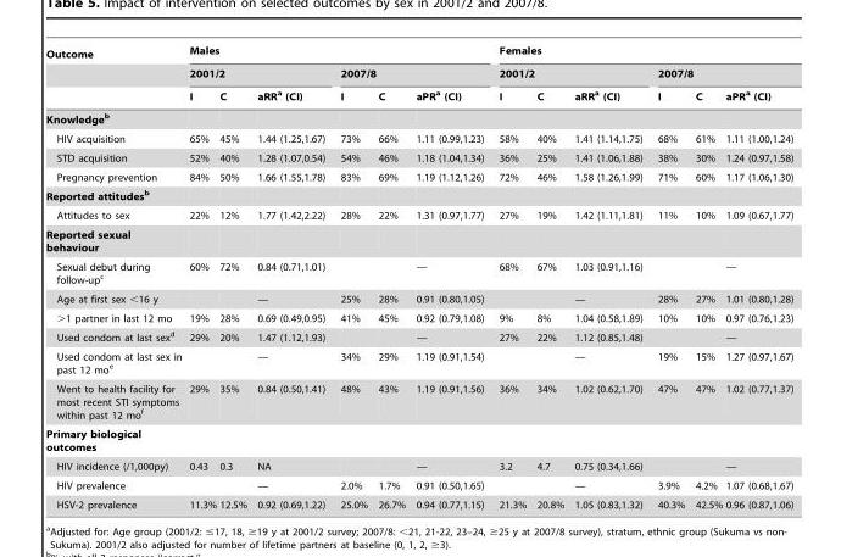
<table><thead><tr><td rowspan="3">Outcome</td><td colspan="6">Males</td><td colspan="6">Females</td></tr><tr><td colspan="3">2001/2</td><td colspan="3">2007/8</td><td colspan="3">2001/2</td><td colspan="3">2007/8</td></tr><tr><td>I</td><td>C</td><td>aRR<sup>a</sup> (CI)</td><td>I</td><td>C</td><td>aPR<sup>a</sup> (CI)</td><td>I</td><td>C</td><td>aRR<sup>a</sup> (CI)</td><td>I</td><td>C</td><td>aPR<sup>a</sup> (CI)</td></tr></thead><tbody><tr><td colspan="13">Knowledgeb</td></tr><tr><td>HIV acquisition</td><td>65%</td><td>45%</td><td>1.44 (1.25,1.67)</td><td>73%</td><td>66%</td><td>1.11 (0.99,1.23)</td><td>58%</td><td>40%</td><td>1.41 (1.14,1.75)</td><td>68%</td><td>61%</td><td>1.11 (1.00,1.24)</td></tr><tr><td>STD acquisition</td><td>52%</td><td>40%</td><td>1.28 (1.07,0.54)</td><td>54%</td><td>46%</td><td>1.18 (1.04,1.34)</td><td>36%</td><td>25%</td><td>1.41 (1.06,1.88)</td><td>38%</td><td>30%</td><td>1.24 (0.97,1.58)</td></tr><tr><td>Pregnancy prevention</td><td>84%</td><td>50%</td><td>1.66 (1.55,1.78)</td><td>83%</td><td>69%</td><td>1.19 (1.12,1.26)</td><td>72%</td><td>46%</td><td>1.58 (1.26,1.99)</td><td>71%</td><td>60%</td><td>1.17 (1.06,1.30)</td></tr><tr><td colspan="13">Reported attitudesb</td></tr><tr><td>Attitudes to sex</td><td>22%</td><td>12%</td><td>1.77 (1.42,2.22)</td><td>28%</td><td>22%</td><td>1.31 (0.97,1.77)</td><td>27%</td><td>19%</td><td>1.42 (1.11,1.81)</td><td>11%</td><td>10%</td><td>1.09 (0.67,1.77)</td></tr><tr><td colspan="13">Reported sexual behaviour</td></tr><tr><td>Sexual debut during follow-up<sup>c</sup></td><td>60%</td><td>72%</td><td>0.84 (0.71,1.01)</td><td></td><td></td><td>—</td><td>68%</td><td>67%</td><td>1.03 (0.91,1.16)</td><td></td><td></td><td>—</td></tr><tr><td>Age at first sex &lt;16 y</td><td></td><td></td><td>—</td><td>25%</td><td>28%</td><td>0.91 (0.80,1.05)</td><td></td><td></td><td>—</td><td>28%</td><td>27%</td><td>1.01 (0.80,1.28)</td></tr><tr><td>&gt;1 partner in last 12 mo</td><td>19%</td><td>28%</td><td>0.69 (0.49,0.95)</td><td>41%</td><td>45%</td><td>0.92 (0.79,1.08)</td><td>9%</td><td>8%</td><td>1.04 (0.58,1.89)</td><td>10%</td><td>10%</td><td>0.97 (0.76,1.23)</td></tr><tr><td>Used condom at last sex<sup>d</sup></td><td>29%</td><td>20%</td><td>1.47 (1.12,1.93)</td><td></td><td></td><td>—</td><td>27%</td><td>22%</td><td>1.12 (0.85,1.48)</td><td></td><td></td><td>—</td></tr><tr><td>Used condom at last sex in past 12 mo<sup>e</sup></td><td></td><td></td><td>—</td><td>34%</td><td>29%</td><td>1.19 (0.91,1.54)</td><td></td><td></td><td>—</td><td>19%</td><td>15%</td><td>1.27 (0.97,1.67)</td></tr><tr><td>Went to health facility for most recent STI symptoms within past 12 mo<sup>f</sup></td><td>29%</td><td>35%</td><td>0.84 (0.50,1.41)</td><td>48%</td><td>43%</td><td>1.19 (0.91,1.56)</td><td>36%</td><td>34%</td><td>1.02 (0.62,1.70)</td><td>47%</td><td>47%</td><td>1.02 (0.77,1.37)</td></tr><tr><td colspan="13">Primary biological outcomes</td></tr><tr><td>HIV incidence (/1,000py)</td><td>0.43</td><td>0.3</td><td>NA</td><td></td><td></td><td>—</td><td>3.2</td><td>4.7</td><td>0.75 (0.34,1.66)</td><td></td><td></td><td>—</td></tr><tr><td>HIV prevalence</td><td></td><td></td><td>—</td><td>2.0%</td><td>1.7%</td><td>0.91 (0.50,1.65)</td><td></td><td></td><td>—</td><td>3.9%</td><td>4.2%</td><td>1.07 (0.68,1.67)</td></tr><tr><td>HSV-2 prevalence</td><td>11.3%</td><td>12.5%</td><td>0.92 (0.69,1.22)</td><td>25.0%</td><td>26.7%</td><td>0.94 (0.77,1.15)</td><td>21.3%</td><td>20.8%</td><td>1.05 (0.83,1.32)</td><td>40.3%</td><td>42.5%</td><td>0.96 (0.87,1.06)</td></tr></tbody></table>